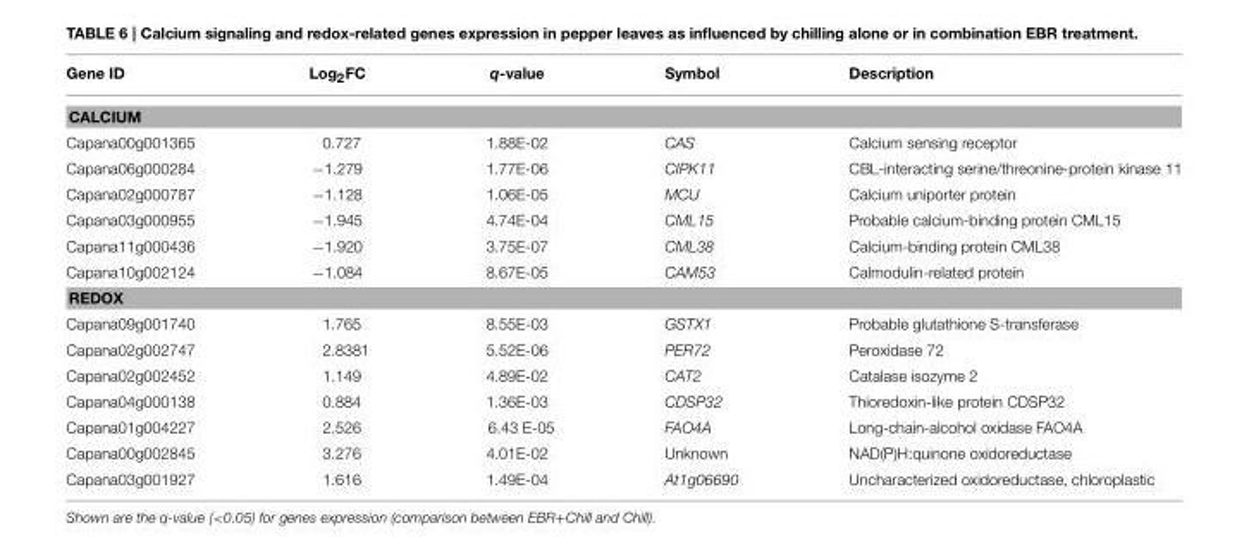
<table><thead><tr><td>Gene ID</td><td>Log<sub>2</sub>FC</td><td>q-value</td><td>Symbol</td><td>Description</td></tr></thead><tbody><tr><td colspan="5">CALCIUM</td></tr><tr><td>Capana00g001365</td><td>0.727</td><td>1.88E-02</td><td>CAS</td><td>Calcium sensing receptor</td></tr><tr><td>Capana06g000284</td><td>−1.279</td><td>1.77E-06</td><td>CIPK11</td><td>CBL-interacting serine/threonine-protein kinase 11</td></tr><tr><td>Capana02g000787</td><td>−1.128</td><td>1.06E-05</td><td>MCU</td><td>Calcium uniporter protein</td></tr><tr><td>Capana03g000955</td><td>−1.945</td><td>4.74E-04</td><td>CML15</td><td>Probable calcium-binding protein CML15</td></tr><tr><td>Capana11g000436</td><td>−1.920</td><td>3.75E-07</td><td>CML38</td><td>Calcium-binding protein CML38</td></tr><tr><td>Capana10g002124</td><td>−1.084</td><td>8.67E-05</td><td>CAM53</td><td>Calmodulin-related protein</td></tr><tr><td colspan="5">REDOX</td></tr><tr><td>Capana09g001740</td><td>1.765</td><td>8.55E-03</td><td>GSTX1</td><td>Probable glutathione S-transferase</td></tr><tr><td>Capana02g002747</td><td>2.8381</td><td>5.52E-06</td><td>PER72</td><td>Peroxidase 72</td></tr><tr><td>Capana02g002452</td><td>1.149</td><td>4.89E-02</td><td>CAT2</td><td>Catalase isozyme 2</td></tr><tr><td>Capana04g000138</td><td>0.884</td><td>1.36E-03</td><td>CDSP32</td><td>Thioredoxin-like protein CDSP32</td></tr><tr><td>Capana01g004227</td><td>2.526</td><td>6.43 E-05</td><td>FAO4A</td><td>Long-chain-alcohol oxidase FAO4A</td></tr><tr><td>Capana00g002845</td><td>3.276</td><td>4.01E-02</td><td>Unknown</td><td>NAD(P)H:quinone oxidoreductase</td></tr><tr><td>Capana03g001927</td><td>1.616</td><td>1.49E-04</td><td>At1g06690</td><td>Uncharacterized oxidoreductase, chloroplastic</td></tr></tbody></table>